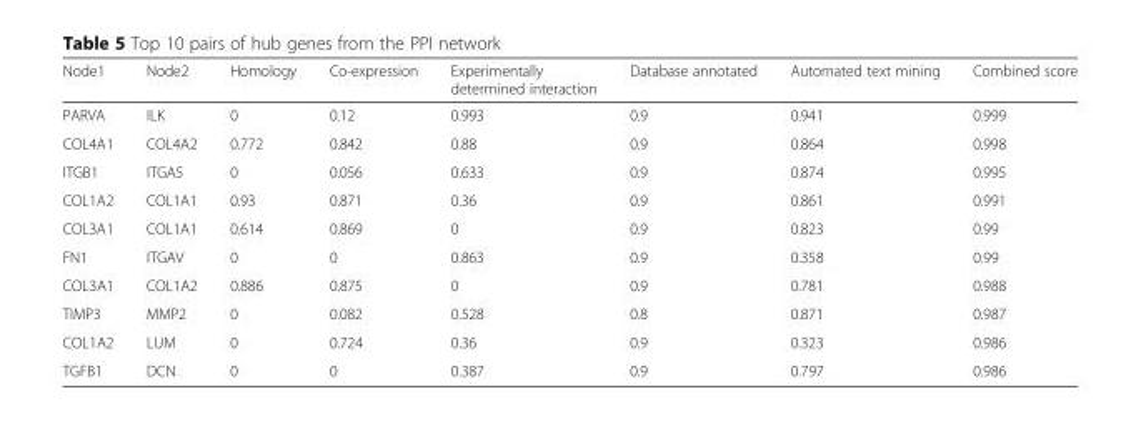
<table><thead><tr><td>Node1</td><td>Node2</td><td>Homology</td><td>Co-expression</td><td>Experimentally determined interaction</td><td>Database annotated</td><td>Automated text mining</td><td>Combined score</td></tr></thead><tbody><tr><td>PARVA</td><td>ILK</td><td>0</td><td>0.12</td><td>0.993</td><td>0.9</td><td>0.941</td><td>0.999</td></tr><tr><td>COL4A1</td><td>COL4A2</td><td>0.772</td><td>0.842</td><td>0.88</td><td>0.9</td><td>0.864</td><td>0.998</td></tr><tr><td>ITGB1</td><td>ITGA5</td><td>0</td><td>0.056</td><td>0.633</td><td>0.9</td><td>0.874</td><td>0.995</td></tr><tr><td>COL1A2</td><td>COL1A1</td><td>0.93</td><td>0.871</td><td>0.36</td><td>0.9</td><td>0.861</td><td>0.991</td></tr><tr><td>COL3A1</td><td>COL1A1</td><td>0.614</td><td>0.869</td><td>0</td><td>0.9</td><td>0.823</td><td>0.99</td></tr><tr><td>FN1</td><td>ITGAV</td><td>0</td><td>0</td><td>0.863</td><td>0.9</td><td>0.358</td><td>0.99</td></tr><tr><td>COL3A1</td><td>COL1A2</td><td>0.886</td><td>0.875</td><td>0</td><td>0.9</td><td>0.781</td><td>0.988</td></tr><tr><td>TIMP3</td><td>MMP2</td><td>0</td><td>0.082</td><td>0.528</td><td>0.8</td><td>0.871</td><td>0.987</td></tr><tr><td>COL1A2</td><td>LUM</td><td>0</td><td>0.724</td><td>0.36</td><td>0.9</td><td>0.323</td><td>0.986</td></tr><tr><td>TGFB1</td><td>DCN</td><td>0</td><td>0</td><td>0.387</td><td>0.9</td><td>0.797</td><td>0.986</td></tr></tbody></table>